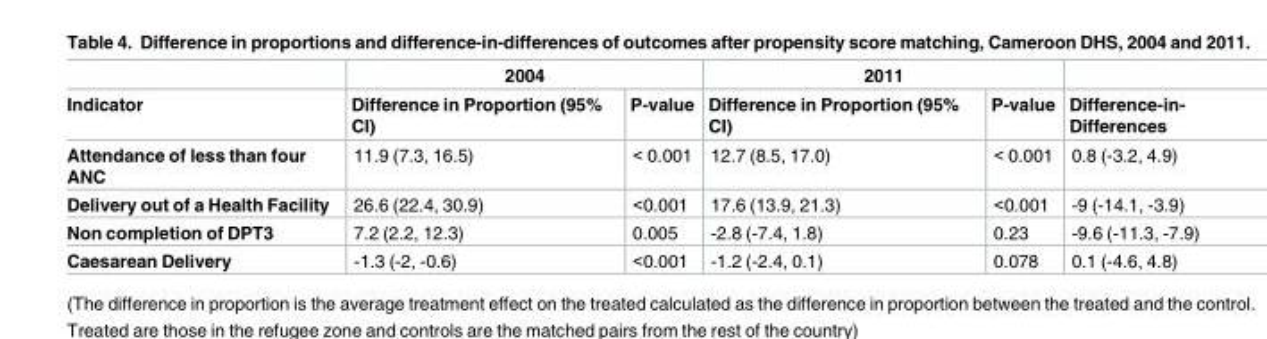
<table><thead><tr><td rowspan="2">Indicator</td><td colspan="2">2004</td><td colspan="2">2011</td><td rowspan="2">Difference-in- Differences</td></tr><tr><td>Difference in Proportion (95% CI)</td><td>P-value</td><td>Difference in Proportion (95% CI)</td><td>P-value</td></tr></thead><tbody><tr><td>Attendance of less than four ANC</td><td>11.9 (7.3, 16.5)</td><td>&lt; 0.001</td><td>12.7 (8.5, 17.0)</td><td>&lt; 0.001</td><td>0.8 (-3.2, 4.9)</td></tr><tr><td>Delivery out of a Health Facility</td><td>26.6 (22.4, 30.9)</td><td>&lt;0.001</td><td>17.6 (13.9, 21.3)</td><td>&lt;0.001</td><td>-9 (-14.1, -3.9)</td></tr><tr><td>Non completion of DPT3</td><td>7.2 (2.2, 12.3)</td><td>0.005</td><td>-2.8 (-7.4, 1.8)</td><td>0.23</td><td>-9.6 (-11.3, -7.9)</td></tr><tr><td>Caesarean Delivery</td><td>-1.3 (-2, -0.6)</td><td>&lt;0.001</td><td>-1.2 (-2.4, 0.1)</td><td>0.078</td><td>0.1 (-4.6, 4.8)</td></tr></tbody></table>